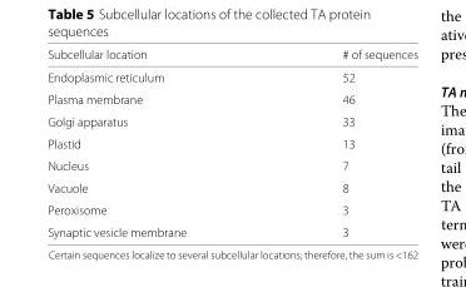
<table><thead><tr><td>Subcellular location</td><td># of sequences</td></tr></thead><tbody><tr><td>Endoplasmic reticulum</td><td>52</td></tr><tr><td>Plasma membrane</td><td>46</td></tr><tr><td>Golgi apparatus</td><td>33</td></tr><tr><td>Plastid</td><td>13</td></tr><tr><td>Nucleus</td><td>7</td></tr><tr><td>Vacuole</td><td>8</td></tr><tr><td>Peroxisome</td><td>3</td></tr><tr><td>Synaptic vesicle membrane</td><td>3</td></tr></tbody></table>